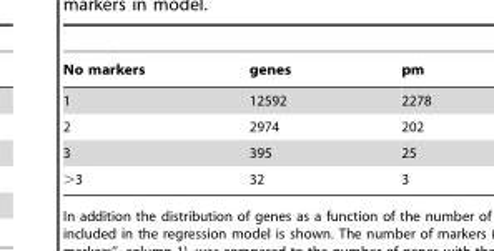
<table><thead><tr><td>No markers</td><td>genes</td><td>pm</td></tr></thead><tbody><tr><td>1</td><td>12592</td><td>2278</td></tr><tr><td>2</td><td>2974</td><td>202</td></tr><tr><td>3</td><td>395</td><td>25</td></tr><tr><td>&gt;3</td><td>32</td><td>3</td></tr></tbody></table>